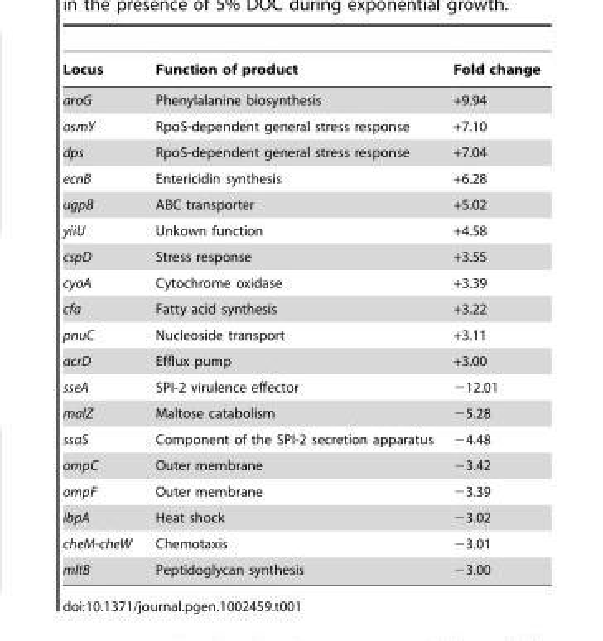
<table><thead><tr><td>Locus</td><td>Function of product</td><td>Fold change</td></tr></thead><tbody><tr><td>aroG</td><td>Phenylalanine biosynthesis</td><td>+9.94</td></tr><tr><td>osmY</td><td>RpoS-dependent general stress response</td><td>+7.10</td></tr><tr><td>dps</td><td>RpoS-dependent general stress response</td><td>+7.04</td></tr><tr><td>ecnB</td><td>Entericidin synthesis</td><td>+6.28</td></tr><tr><td>ugpB</td><td>ABC transporter</td><td>+5.02</td></tr><tr><td>yiiU</td><td>Unkown function</td><td>+4.58</td></tr><tr><td>cspD</td><td>Stress response</td><td>+3.55</td></tr><tr><td>cyoA</td><td>Cytochrome oxidase</td><td>+3.39</td></tr><tr><td>cfa</td><td>Fatty acid synthesis</td><td>+3.22</td></tr><tr><td>pnuC</td><td>Nucleoside transport</td><td>+3.11</td></tr><tr><td>acrD</td><td>Efflux pump</td><td>+3.00</td></tr><tr><td>sseA</td><td>SPI-2 virulence effector</td><td>−12.01</td></tr><tr><td>malZ</td><td>Maltose catabolism</td><td>−5.28</td></tr><tr><td>ssaS</td><td>Component of the SPI-2 secretion apparatus</td><td>−4.48</td></tr><tr><td>ompC</td><td>Outer membrane</td><td>−3.42</td></tr><tr><td>ompF</td><td>Outer membrane</td><td>−3.39</td></tr><tr><td>ibpA</td><td>Heat shock</td><td>−3.02</td></tr><tr><td>cheM-cheW</td><td>Chemotaxis</td><td>−3.01</td></tr><tr><td>mltB</td><td>Peptidoglycan synthesis</td><td>−3.00</td></tr></tbody></table>